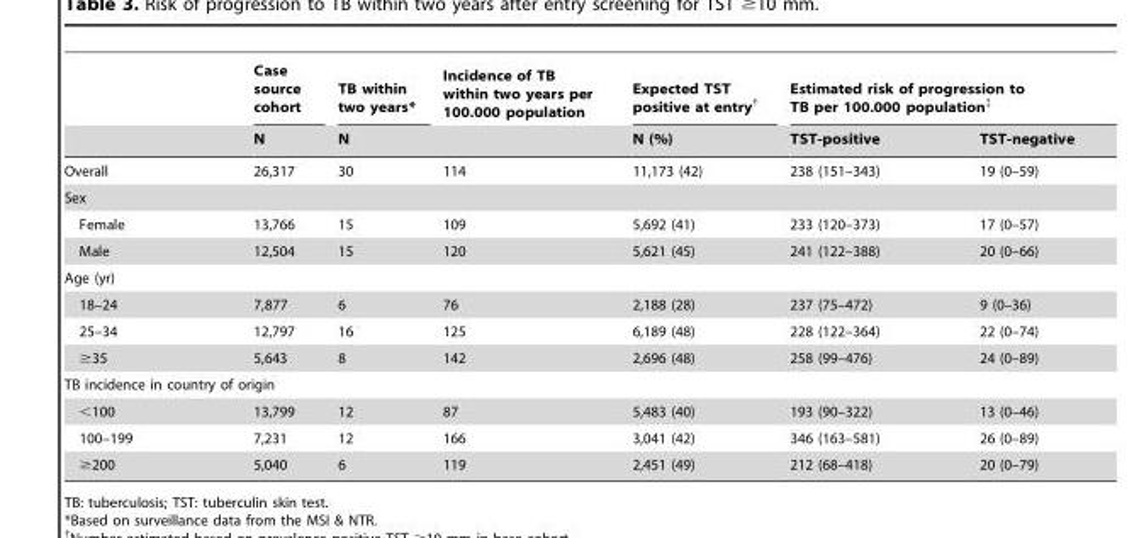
<table><thead><tr><td rowspan="2"></td><td rowspan="2">Case source cohort N</td><td rowspan="2">TB within two years* N</td><td rowspan="2">Incidence of TB within two years per 100.000 population</td><td rowspan="2">Expected TST positive at entry† N (%)</td><td colspan="2">Estimated risk of progression to TB per 100.000 population‡</td></tr><tr><td>TST-positive</td><td>TST-negative</td></tr></thead><tbody><tr><td>Overall</td><td>26,317</td><td>30</td><td>114</td><td>11,173 (42)</td><td>238 (151–343)</td><td>19 (0–59)</td></tr><tr><td colspan="7">Sex</td></tr><tr><td>Female</td><td>13,766</td><td>15</td><td>109</td><td>5,692 (41)</td><td>233 (120–373)</td><td>17 (0–57)</td></tr><tr><td>Male</td><td>12,504</td><td>15</td><td>120</td><td>5,621 (45)</td><td>241 (122–388)</td><td>20 (0–66)</td></tr><tr><td colspan="7">Age (yr)</td></tr><tr><td>18–24</td><td>7,877</td><td>6</td><td>76</td><td>2,188 (28)</td><td>237 (75–472)</td><td>9 (0–36)</td></tr><tr><td>25–34</td><td>12,797</td><td>16</td><td>125</td><td>6,189 (48)</td><td>228 (122–364)</td><td>22 (0–74)</td></tr><tr><td>≥35</td><td>5,643</td><td>8</td><td>142</td><td>2,696 (48)</td><td>258 (99–476)</td><td>24 (0–89)</td></tr><tr><td colspan="7">TB incidence in country of origin</td></tr><tr><td>&lt;100</td><td>13,799</td><td>12</td><td>87</td><td>5,483 (40)</td><td>193 (90–322)</td><td>13 (0–46)</td></tr><tr><td>100–199</td><td>7,231</td><td>12</td><td>166</td><td>3,041 (42)</td><td>346 (163–581)</td><td>26 (0–89)</td></tr><tr><td>≥200</td><td>5,040</td><td>6</td><td>119</td><td>2,451 (49)</td><td>212 (68–418)</td><td>20 (0–79)</td></tr></tbody></table>